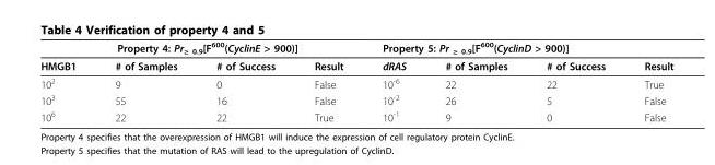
<table><thead><tr><td colspan="4">Property 4: Pr<sub>≥ 0.9</sub>[F<sup>600</sup>(CyclinE &gt; 900)]</td><td colspan="4">Property 5: Pr <sub>≥ 0.9</sub>[F<sup>600</sup>(CyclinD &gt; 900)]</td></tr><tr><td>HMGB1</td><td># of Samples</td><td># of Success</td><td>Result</td><td>dRAS</td><td># of Samples</td><td># of Success</td><td>Result</td></tr></thead><tbody><tr><td>10<sup>2</sup></td><td>9</td><td>0</td><td>False</td><td>10<sup>-6</sup></td><td>22</td><td>22</td><td>True</td></tr><tr><td>10<sup>3</sup></td><td>55</td><td>16</td><td>False</td><td>10<sup>-2</sup></td><td>26</td><td>5</td><td>False</td></tr><tr><td>10<sup>6</sup></td><td>22</td><td>22</td><td>True</td><td>10<sup>-1</sup></td><td>9</td><td>0</td><td>False</td></tr></tbody></table>